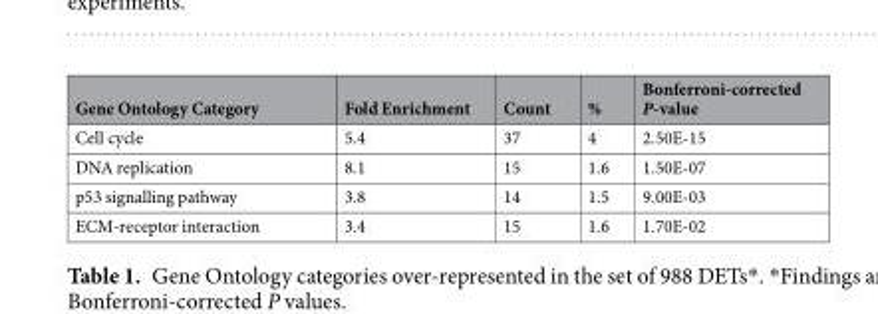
<table><thead><tr><td>Gene Ontology Category</td><td>Fold Enrichment</td><td>Count</td><td>%</td><td>Bonferroni-corrected P-value</td></tr></thead><tbody><tr><td>Cell cycle</td><td>5.4</td><td>37</td><td>4</td><td>2.50E-15</td></tr><tr><td>DNA replication</td><td>8.1</td><td>15</td><td>1.6</td><td>1.50E-07</td></tr><tr><td>p53 signalling pathway</td><td>3.8</td><td>14</td><td>1.5</td><td>9.00E-03</td></tr><tr><td>ECM-receptor interaction</td><td>3.4</td><td>15</td><td>1.6</td><td>1.70E-02</td></tr></tbody></table>